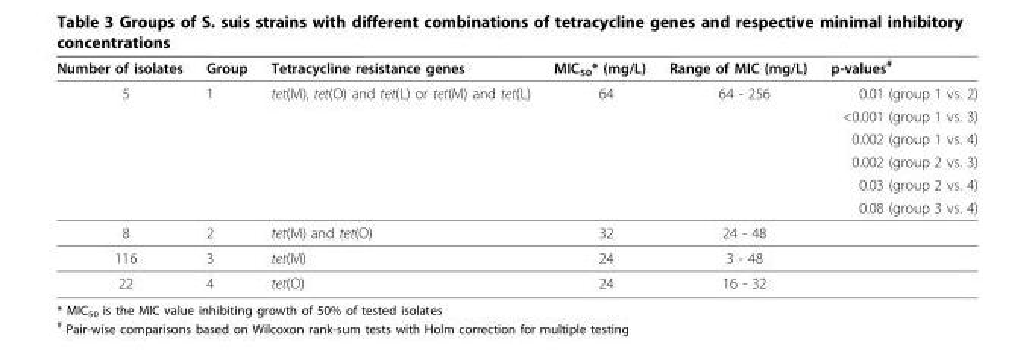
<table><thead><tr><td>Number of isolates</td><td>Group</td><td>Tetracycline resistance genes</td><td>MIC<sub>50</sub>* (mg/L)</td><td>Range of MIC (mg/L)</td><td>p-values<sup>#</sup></td></tr></thead><tbody><tr><td rowspan="6">5</td><td>1</td><td>tet(M), tet(O) and tet(L) or tet(M) and tet(L)</td><td>64</td><td>64 - 256</td><td>0.01 (group 1 vs. 2)</td></tr><tr><td></td><td></td><td></td><td></td><td>&lt;0.001 (group 1 vs. 3)</td></tr><tr><td></td><td></td><td></td><td></td><td>0.002 (group 1 vs. 4)</td></tr><tr><td></td><td></td><td></td><td></td><td>0.002 (group 2 vs. 3)</td></tr><tr><td></td><td></td><td></td><td></td><td>0.03 (group 2 vs. 4)</td></tr><tr><td></td><td></td><td></td><td></td><td>0.08 (group 3 vs. 4)</td></tr><tr><td>8</td><td>2</td><td>tet(M) and tet(O)</td><td>32</td><td>24 - 48</td><td></td></tr><tr><td>116</td><td>3</td><td>tet(M)</td><td>24</td><td>3 - 48</td><td></td></tr><tr><td>22</td><td>4</td><td>tet(O)</td><td>24</td><td>16 - 32</td><td></td></tr></tbody></table>